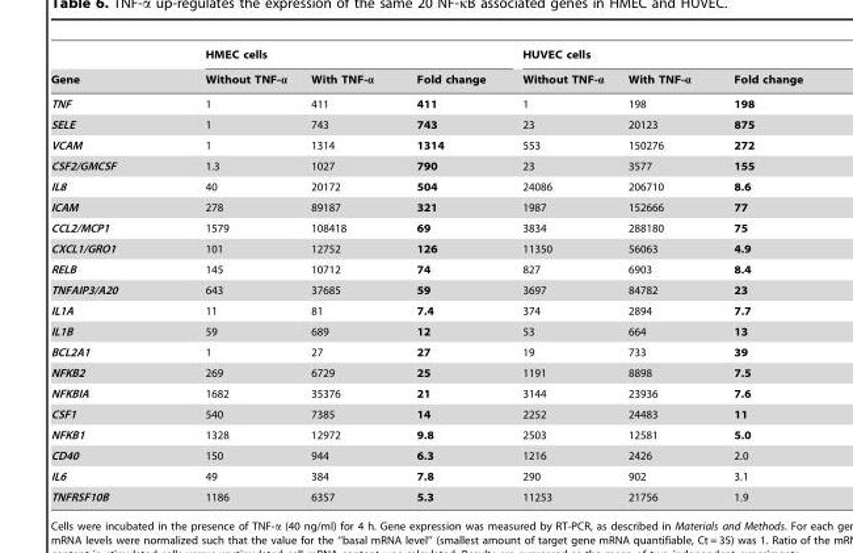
<table><thead><tr><td rowspan="2">Gene</td><td colspan="3">HMEC cells</td><td colspan="3">HUVEC cells</td></tr><tr><td>Without TNF-α</td><td>With TNF-α</td><td>Fold change</td><td>Without TNF-α</td><td>With TNF-α</td><td>Fold change</td></tr></thead><tbody><tr><td>TNF</td><td>1</td><td>411</td><td>411</td><td>1</td><td>198</td><td>198</td></tr><tr><td>SELE</td><td>1</td><td>743</td><td>743</td><td>23</td><td>20123</td><td>875</td></tr><tr><td>VCAM</td><td>1</td><td>1314</td><td>1314</td><td>553</td><td>150276</td><td>272</td></tr><tr><td>CSF2/GMCSF</td><td>1.3</td><td>1027</td><td>790</td><td>23</td><td>3577</td><td>155</td></tr><tr><td>IL8</td><td>40</td><td>20172</td><td>504</td><td>24086</td><td>206710</td><td>8.6</td></tr><tr><td>ICAM</td><td>278</td><td>89187</td><td>321</td><td>1987</td><td>152666</td><td>77</td></tr><tr><td>CCL2/MCP1</td><td>1579</td><td>108418</td><td>69</td><td>3834</td><td>288180</td><td>75</td></tr><tr><td>CXCL1/GRO1</td><td>101</td><td>12752</td><td>126</td><td>11350</td><td>56063</td><td>4.9</td></tr><tr><td>RELB</td><td>145</td><td>10712</td><td>74</td><td>827</td><td>6903</td><td>8.4</td></tr><tr><td>TNFAIP3/A20</td><td>643</td><td>37685</td><td>59</td><td>3697</td><td>84782</td><td>23</td></tr><tr><td>IL1A</td><td>11</td><td>81</td><td>7.4</td><td>374</td><td>2894</td><td>7.7</td></tr><tr><td>IL1B</td><td>59</td><td>689</td><td>12</td><td>53</td><td>664</td><td>13</td></tr><tr><td>BCL2A1</td><td>1</td><td>27</td><td>27</td><td>19</td><td>733</td><td>39</td></tr><tr><td>NFKB2</td><td>269</td><td>6729</td><td>25</td><td>1191</td><td>8898</td><td>7.5</td></tr><tr><td>NFKBIA</td><td>1682</td><td>35376</td><td>21</td><td>3144</td><td>23936</td><td>7.6</td></tr><tr><td>CSF1</td><td>540</td><td>7385</td><td>14</td><td>2252</td><td>24483</td><td>11</td></tr><tr><td>NFKB1</td><td>1328</td><td>12972</td><td>9.8</td><td>2503</td><td>12581</td><td>5.0</td></tr><tr><td>CD40</td><td>150</td><td>944</td><td>6.3</td><td>1216</td><td>2426</td><td>2.0</td></tr><tr><td>IL6</td><td>49</td><td>384</td><td>7.8</td><td>290</td><td>902</td><td>3.1</td></tr><tr><td>TNFRSF10B</td><td>1186</td><td>6357</td><td>5.3</td><td>11253</td><td>21756</td><td>1.9</td></tr></tbody></table>